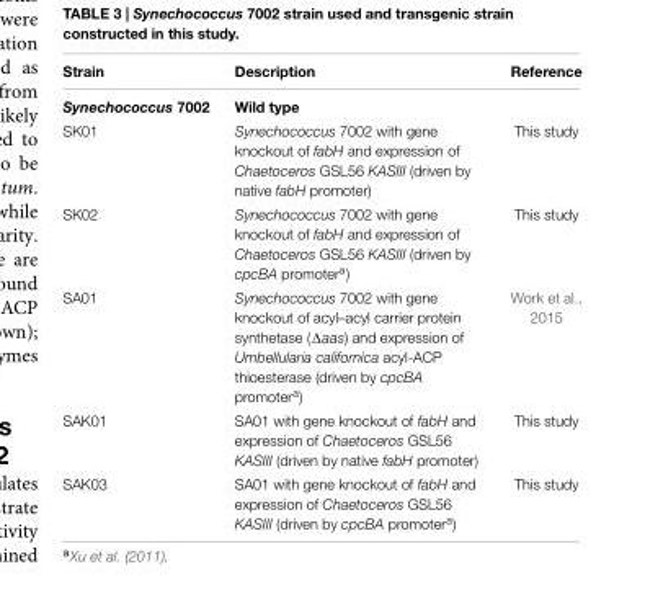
<table><thead><tr><td>Strain</td><td>Description</td><td>Reference</td></tr></thead><tbody><tr><td>Synechococcus 7002</td><td>Wild type</td><td></td></tr><tr><td>SK01</td><td>Synechococcus 7002 with gene knockout of fabH and expression of Chaetoceros GSL56 KASIII (driven by native fabH promoter)</td><td>This study</td></tr><tr><td>SK02</td><td>Synechococcus 7002 with gene knockout of fabH and expression of Chaetoceros GSL56 KASIII (driven by cpcBA promoter<sup>a</sup>)</td><td>This study</td></tr><tr><td>SA01</td><td>Synechococcus 7002 with gene knockout of acyl–acyl carrier protein synthetase (Δaas) and expression of Umbellularia californica acyl-ACP thioesterase (driven by cpcBA promoter<sup>a</sup>)</td><td>Work et al., 2015</td></tr><tr><td>SAK01</td><td>SA01 with gene knockout of fabH and expression of Chaetoceros GSL56 KASIII (driven by native fabH promoter)</td><td>This study</td></tr><tr><td>SAK03</td><td>SA01 with gene knockout of fabH and expression of Chaetoceros GSL56 KASIII (driven by cpcBA promoter<sup>a</sup>)</td><td>This study</td></tr></tbody></table>